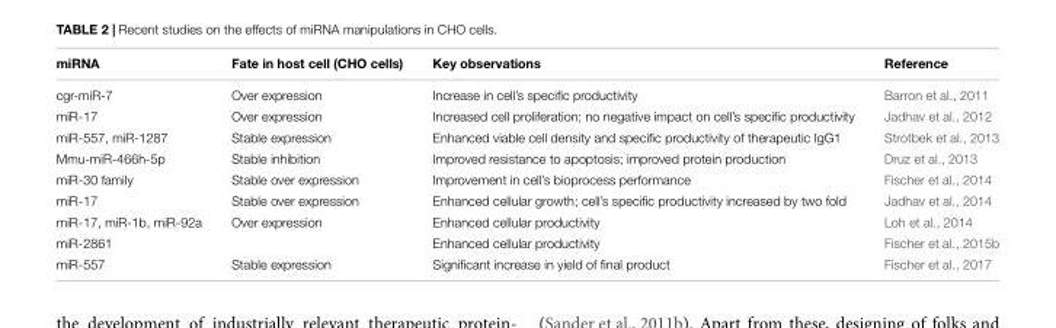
<table><thead><tr><td>miRNA</td><td>Fate in host cell (CHO cells)</td><td>Key observations</td><td>Reference</td></tr></thead><tbody><tr><td>cgr-miR-7</td><td>Over expression</td><td>Increase in cell’s specific productivity</td><td>Barron et al., 2011</td></tr><tr><td>miR-17</td><td>Over expression</td><td>Increased cell proliferation; no negative impact on cell’s specific productivity</td><td>Jadhav et al., 2012</td></tr><tr><td>miR-557, miR-1287</td><td>Stable expression</td><td>Enhanced viable cell density and specific productivity of therapeutic IgG1</td><td>Strotbek et al., 2013</td></tr><tr><td>Mmu-miR-466h-5p</td><td>Stable inhibition</td><td>Improved resistance to apoptosis; improved protein production</td><td>Druz et al., 2013</td></tr><tr><td>miR-30 family</td><td>Stable over expression</td><td>Improvement in cell’s bioprocess performance</td><td>Fischer et al., 2014</td></tr><tr><td>miR-17</td><td>Stable over expression</td><td>Enhanced cellular growth; cell’s specific productivity increased by two fold</td><td>Jadhav et al., 2014</td></tr><tr><td>miR-17, miR-1b, miR-92a</td><td>Over expression</td><td>Enhanced cellular productivity</td><td>Loh et al., 2014</td></tr><tr><td>miR-2861</td><td></td><td>Enhanced cellular productivity</td><td>Fischer et al., 2015b</td></tr><tr><td>miR-557</td><td>Stable expression</td><td>Significant increase in yield of final product</td><td>Fischer et al., 2017</td></tr></tbody></table>